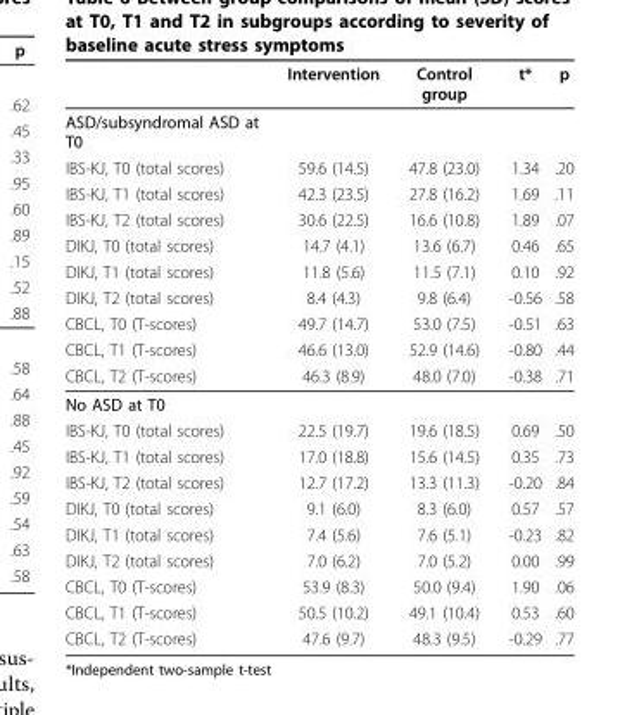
<table><thead><tr><td></td><td>Intervention</td><td>Control group</td><td>t*</td><td>p</td></tr></thead><tbody><tr><td colspan="5">ASD/subsyndromal ASD at T0</td></tr><tr><td>IBS-KJ, T0 (total scores)</td><td>59.6 (14.5)</td><td>47.8 (23.0)</td><td>1.34</td><td>.20</td></tr><tr><td>IBS-KJ, T1 (total scores)</td><td>42.3 (23.5)</td><td>27.8 (16.2)</td><td>1.69</td><td>.11</td></tr><tr><td>IBS-KJ, T2 (total scores)</td><td>30.6 (22.5)</td><td>16.6 (10.8)</td><td>1.89</td><td>.07</td></tr><tr><td>DIKJ, T0 (total scores)</td><td>14.7 (4.1)</td><td>13.6 (6.7)</td><td>0.46</td><td>.65</td></tr><tr><td>DIKJ, T1 (total scores)</td><td>11.8 (5.6)</td><td>11.5 (7.1)</td><td>0.10</td><td>.92</td></tr><tr><td>DIKJ, T2 (total scores)</td><td>8.4 (4.3)</td><td>9.8 (6.4)</td><td>-0.56</td><td>.58</td></tr><tr><td>CBCL, T0 (T-scores)</td><td>49.7 (14.7)</td><td>53.0 (7.5)</td><td>-0.51</td><td>.63</td></tr><tr><td>CBCL, T1 (T-scores)</td><td>46.6 (13.0)</td><td>52.9 (14.6)</td><td>-0.80</td><td>.44</td></tr><tr><td>CBCL, T2 (T-scores)</td><td>46.3 (8.9)</td><td>48.0 (7.0)</td><td>-0.38</td><td>.71</td></tr><tr><td colspan="5">No ASD at T0</td></tr><tr><td>IBS-KJ, T0 (total scores)</td><td>22.5 (19.7)</td><td>19.6 (18.5)</td><td>0.69</td><td>.50</td></tr><tr><td>IBS-KJ, T1 (total scores)</td><td>17.0 (18.8)</td><td>15.6 (14.5)</td><td>0.35</td><td>.73</td></tr><tr><td>IBS-KJ, T2 (total scores)</td><td>12.7 (17.2)</td><td>13.3 (11.3)</td><td>-0.20</td><td>.84</td></tr><tr><td>DIKJ, T0 (total scores)</td><td>9.1 (6.0)</td><td>8.3 (6.0)</td><td>0.57</td><td>.57</td></tr><tr><td>DIKJ, T1 (total scores)</td><td>7.4 (5.6)</td><td>7.6 (5.1)</td><td>-0.23</td><td>.82</td></tr><tr><td>DIKJ, T2 (total scores)</td><td>7.0 (6.2)</td><td>7.0 (5.2)</td><td>0.00</td><td>.99</td></tr><tr><td>CBCL, T0 (T-scores)</td><td>53.9 (8.3)</td><td>50.0 (9.4)</td><td>1.90</td><td>.06</td></tr><tr><td>CBCL, T1 (T-scores)</td><td>50.5 (10.2)</td><td>49.1 (10.4)</td><td>0.53</td><td>.60</td></tr><tr><td>CBCL, T2 (T-scores)</td><td>47.6 (9.7)</td><td>48.3 (9.5)</td><td>-0.29</td><td>.77</td></tr></tbody></table>